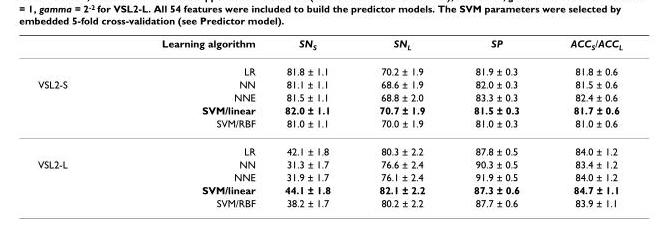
<table><thead><tr><td></td><td>Learning algorithm</td><td>SNS</td><td>SNL</td><td>SP</td><td>ACCS/ACCL</td></tr></thead><tbody><tr><td></td><td>LR</td><td>81.8 ± 1.1</td><td>70.2 ± 1.9</td><td>81.9 ± 0.3</td><td>81.8 ± 0.6</td></tr><tr><td rowspan="5">VSL2-S</td><td>NN</td><td>81.1 ± 1.1</td><td>68.6 ± 1.9</td><td>82.0 ± 0.3</td><td>81.5 ± 0.6</td></tr><tr><td>NNE</td><td>81.5 ± 1.1</td><td>68.8 ± 2.0</td><td>83.3 ± 0.3</td><td>82.4 ± 0.6</td></tr><tr><td>SVM/linear</td><td>82.0 ± 1.1</td><td>70.7 ± 1.9</td><td>81.5 ± 0.3</td><td>81.7 ± 0.6</td></tr><tr><td>SVM/RBF</td><td>81.0 ± 1.1</td><td>70.0 ± 1.9</td><td>81.0 ± 0.3</td><td>81.0 ± 0.6</td></tr><tr><td>LR</td><td>42.1 ± 1.8</td><td>80.3 ± 2.2</td><td>87.8 ± 0.5</td><td>84.0 ± 1.2</td></tr><tr><td rowspan="4">VSL2-L</td><td>NN</td><td>31.3 ± 1.7</td><td>76.6 ± 2.4</td><td>90.3 ± 0.5</td><td>83.4 ± 1.2</td></tr><tr><td>NNE</td><td>31.9 ± 1.7</td><td>76.1 ± 2.4</td><td>91.9 ± 0.5</td><td>84.0 ± 1.2</td></tr><tr><td>SVM/linear</td><td>44.1 ± 1.8</td><td>82.1 ± 2.2</td><td>87.3 ± 0.6</td><td>84.7 ± 1.1</td></tr><tr><td>SVM/RBF</td><td>38.2 ± 1.7</td><td>80.2 ± 2.2</td><td>87.7 ± 0.6</td><td>83.9 ± 1.1</td></tr></tbody></table>